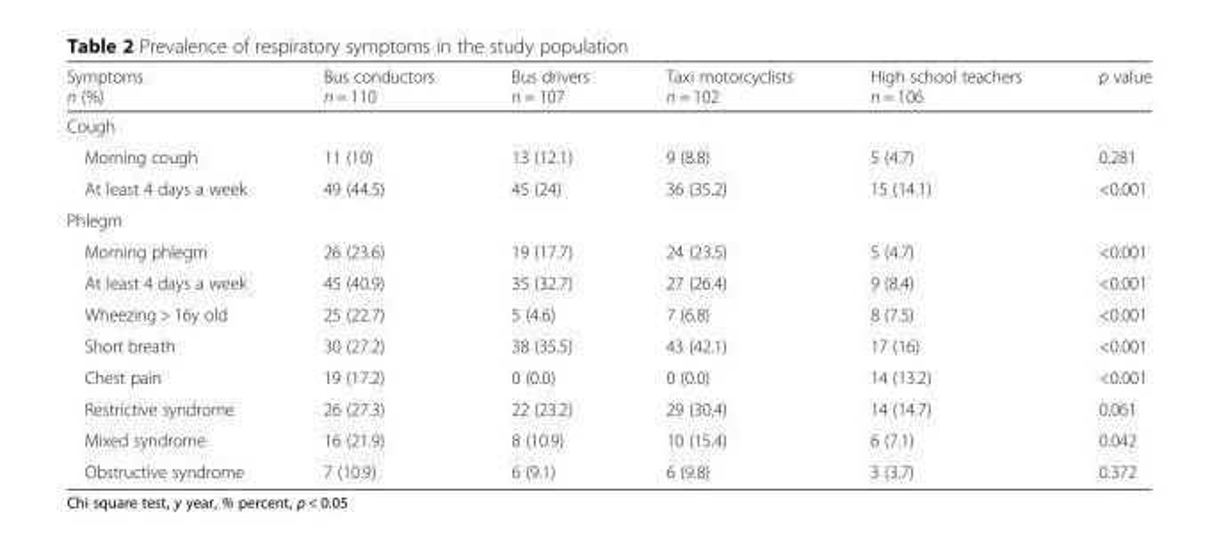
<table><thead><tr><td>Symptoms n (%)</td><td>Bus conductors n = 110</td><td>Bus drivers n = 107</td><td>Taxi motorcyclists n = 102</td><td>High school teachers n = 106</td><td>p value</td></tr></thead><tbody><tr><td colspan="6">Cough</td></tr><tr><td>Morning cough</td><td>11 (10)</td><td>13 (12.1)</td><td>9 (8.8)</td><td>5 (4.7)</td><td>0.281</td></tr><tr><td>At least 4 days a week</td><td>49 (44.5)</td><td>45 (24)</td><td>36 (35.2)</td><td>15 (14.1)</td><td>&lt;0.001</td></tr><tr><td colspan="6">Phlegm</td></tr><tr><td>Morning phlegm</td><td>26 (23.6)</td><td>19 (17.7)</td><td>24 (23.5)</td><td>5 (4.7)</td><td>&lt;0.001</td></tr><tr><td>At least 4 days a week</td><td>45 (40.9)</td><td>35 (32.7)</td><td>27 (26.4)</td><td>9 (8.4)</td><td>&lt;0.001</td></tr><tr><td>Wheezing &gt; 16y old</td><td>25 (22.7)</td><td>5 (4.6)</td><td>7 (6.8)</td><td>8 (7.5)</td><td>&lt;0.001</td></tr><tr><td>Short breath</td><td>30 (27.2)</td><td>38 (35.5)</td><td>43 (42.1)</td><td>17 (16)</td><td>&lt;0.001</td></tr><tr><td>Chest pain</td><td>19 (17.2)</td><td>0 (0.0)</td><td>0 (0.0)</td><td>14 (13.2)</td><td>&lt;0.001</td></tr><tr><td>Restrictive syndrome</td><td>26 (27.3)</td><td>22 (23.2)</td><td>29 (30.4)</td><td>14 (14.7)</td><td>0.061</td></tr><tr><td>Mixed syndrome</td><td>16 (21.9)</td><td>8 (10.9)</td><td>10 (15.4)</td><td>6 (7.1)</td><td>0.042</td></tr><tr><td>Obstructive syndrome</td><td>7 (10.9)</td><td>6 (9.1)</td><td>6 (9.8)</td><td>3 (3.7)</td><td>0.372</td></tr></tbody></table>